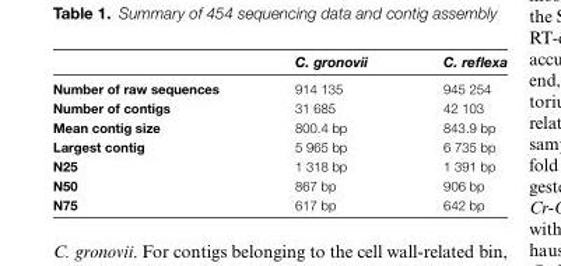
<table><thead><tr><td></td><td>C. gronovii</td><td>C. reflexa</td></tr></thead><tbody><tr><td>Number of raw sequences</td><td>914 135</td><td>945 254</td></tr><tr><td>Number of contigs</td><td>31 685</td><td>42 103</td></tr><tr><td>Mean contig size</td><td>800.4 bp</td><td>843.9 bp</td></tr><tr><td>Largest contig</td><td>5 965 bp</td><td>6 735 bp</td></tr><tr><td>N25</td><td>1 318 bp</td><td>1 391 bp</td></tr><tr><td>N50</td><td>867 bp</td><td>906 bp</td></tr><tr><td>N75</td><td>617 bp</td><td>642 bp</td></tr></tbody></table>